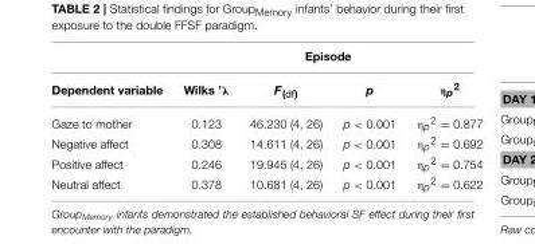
<table><thead><tr><td rowspan="2">Dependent variable</td><td colspan="4">Episode</td></tr><tr><td>Wilks ’λ</td><td>F<sub>(df)</sub></td><td>p</td><td>ηp2</td></tr></thead><tbody><tr><td>Gaze to mother</td><td>0.123</td><td>46.230 (4, 26)</td><td>p &lt; 0.001</td><td>ηp2 = 0.877</td></tr><tr><td>Negative affect</td><td>0.308</td><td>14.611 (4, 26)</td><td>p &lt; 0.001</td><td>ηp2 = 0.692</td></tr><tr><td>Positive affect</td><td>0.246</td><td>19.945 (4, 26)</td><td>p &lt; 0.001</td><td>ηp2 = 0.754</td></tr><tr><td>Neutral affect</td><td>0.378</td><td>10.681 (4, 26)</td><td>p &lt; 0.001</td><td>ηp2 = 0.622</td></tr></tbody></table>